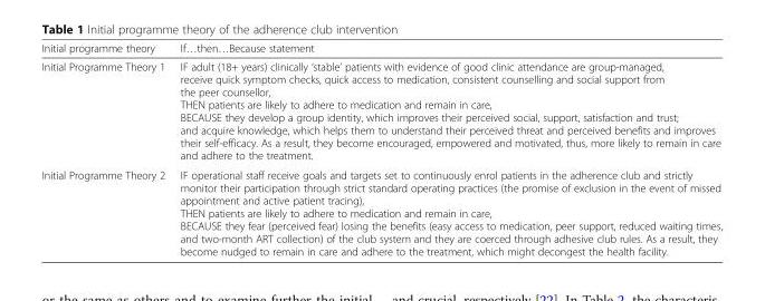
<table><thead><tr><td>Initial programme theory</td><td>If…then…Because statement</td></tr></thead><tbody><tr><td>Initial Programme Theory 1</td><td>IF adult (18+ years) clinically ‘stable’ patients with evidence of good clinic attendance are group-managed, receive quick symptom checks, quick access to medication, consistent counselling and social support from the peer counsellor, THEN patients are likely to adhere to medication and remain in care, BECAUSE they develop a group identity, which improves their perceived social, support, satisfaction and trust; and acquire knowledge, which helps them to understand their perceived threat and perceived benefits and improves their self-efficacy. As a result, they become encouraged, empowered and motivated, thus, more likely to remain in care and adhere to the treatment.</td></tr><tr><td>Initial Programme Theory 2</td><td>IF operational staff receive goals and targets set to continuously enrol patients in the adherence club and strictly monitor their participation through strict standard operating practices (the promise of exclusion in the event of missed appointment and active patient tracing), THEN patients are likely to adhere to medication and remain in care, BECAUSE they fear (perceived fear) losing the benefits (easy access to medication, peer support, reduced waiting times, and two-month ART collection) of the club system and they are coerced through adhesive club rules. As a result, they become nudged to remain in care and adhere to the treatment, which might decongest the health facility.</td></tr></tbody></table>